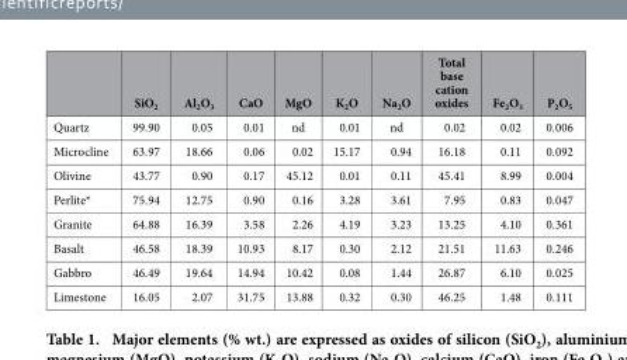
<table><thead><tr><td></td><td>SiO<sub>2</sub></td><td>Al<sub>2</sub>O<sub>3</sub></td><td>CaO</td><td>MgO</td><td>K<sub>2</sub>O</td><td>Na<sub>2</sub>O</td><td>Total base cation oxides</td><td>Fe<sub>2</sub>O<sub>3</sub></td><td>P<sub>2</sub>O<sub>5</sub></td></tr></thead><tbody><tr><td>Quartz</td><td>99.90</td><td>0.05</td><td>0.01</td><td>nd</td><td>0.01</td><td>nd</td><td>0.02</td><td>0.02</td><td>0.006</td></tr><tr><td>Microcline</td><td>63.97</td><td>18.66</td><td>0.06</td><td>0.02</td><td>15.17</td><td>0.94</td><td>16.18</td><td>0.11</td><td>0.092</td></tr><tr><td>Olivine</td><td>43.77</td><td>0.90</td><td>0.17</td><td>45.12</td><td>0.01</td><td>0.11</td><td>45.41</td><td>8.99</td><td>0.004</td></tr><tr><td>Perlite*</td><td>75.94</td><td>12.75</td><td>0.90</td><td>0.16</td><td>3.28</td><td>3.61</td><td>7.95</td><td>0.83</td><td>0.047</td></tr><tr><td>Granite</td><td>64.88</td><td>16.39</td><td>3.58</td><td>2.26</td><td>4.19</td><td>3.23</td><td>13.25</td><td>4.10</td><td>0.361</td></tr><tr><td>Basalt</td><td>46.58</td><td>18.39</td><td>10.93</td><td>8.17</td><td>0.30</td><td>2.12</td><td>21.51</td><td>11.63</td><td>0.246</td></tr><tr><td>Gabbro</td><td>46.49</td><td>19.64</td><td>14.94</td><td>10.42</td><td>0.08</td><td>1.44</td><td>26.87</td><td>6.10</td><td>0.025</td></tr><tr><td>Limestone</td><td>16.05</td><td>2.07</td><td>31.75</td><td>13.88</td><td>0.32</td><td>0.30</td><td>46.25</td><td>1.48</td><td>0.111</td></tr></tbody></table>